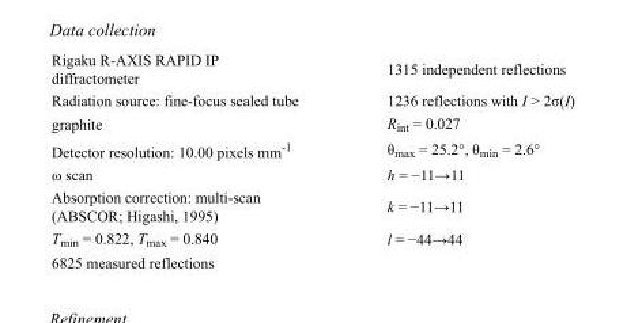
<table><tbody><tr><td>Rigaku R-AXIS RAPID IP diffractometer</td><td>1315 independent reflections</td></tr><tr><td>Radiation source: fine-focus sealed tube</td><td>1236 reflections with I &gt; 2σ(I)</td></tr><tr><td>graphite</td><td>R<sub>int</sub> = 0.027</td></tr><tr><td>Detector resolution: 10.00 pixels mm<sup>-1</sup></td><td>θ<sub>max</sub> = 25.2°, θ<sub>min</sub> = 2.6°</td></tr><tr><td>ω scan</td><td>h = −11→11</td></tr><tr><td>Absorption correction: multi-scan (ABSCOR; Higashi, 1995)</td><td>k = −11→11</td></tr><tr><td>T<sub>min</sub> = 0.822, T<sub>max</sub> = 0.840</td><td>l = −44→44</td></tr><tr><td>6825 measured reflections</td><td></td></tr></tbody></table>